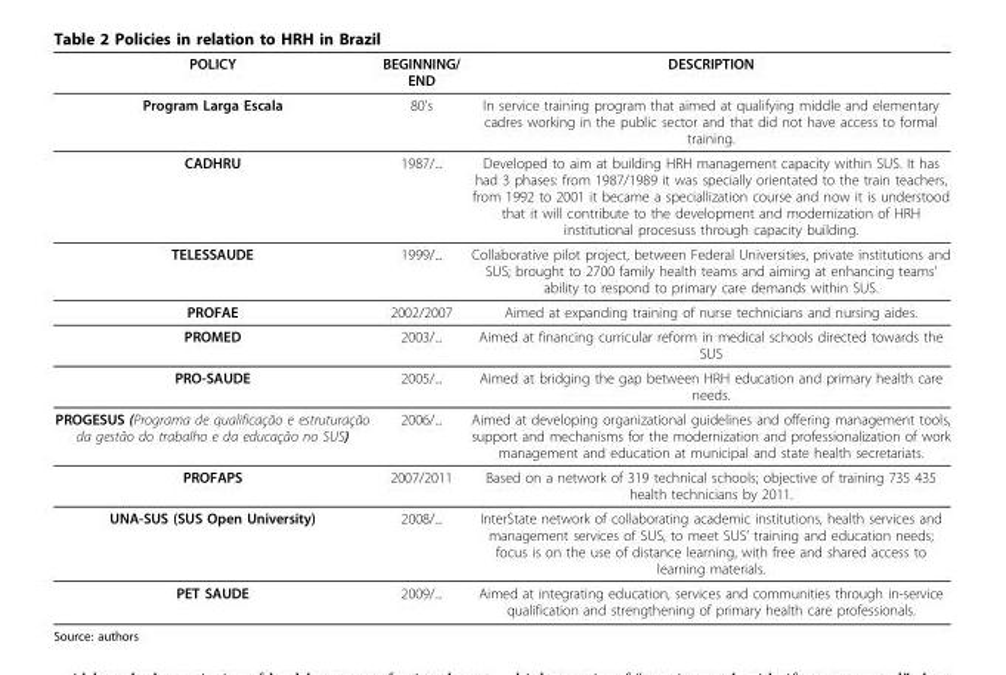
<table><thead><tr><td>POLICY</td><td>BEGINNING/ END</td><td>DESCRIPTION</td></tr></thead><tbody><tr><td>Program Larga Escala</td><td>80’s</td><td>In service training program that aimed at qualifying middle and elementary cadres working in the public sector and that did not have access to formal training.</td></tr><tr><td>CADHRU</td><td>1987/...</td><td>Developed to aim at building HRH management capacity within SUS. It has had 3 phases: from 1987/1989 it was specially orientated to the train teachers, from 1992 to 2001 it became a speciallization course and now it is understood that it will contribute to the development and modernization of HRH institutional procesuss through capacity building.</td></tr><tr><td>TELESSAUDE</td><td>1999/...</td><td>Collaborative pilot project, between Federal Universities, private institutions and SUS; brought to 2700 family health teams and aiming at enhancing teams’ ability to respond to primary care demands within SUS.</td></tr><tr><td>PROFAE</td><td>2002/2007</td><td>Aimed at expanding training of nurse technicians and nursing aides.</td></tr><tr><td>PROMED</td><td>2003/...</td><td>Aimed at financing curricular reform in medical schools directed towards the SUS</td></tr><tr><td>PRO-SAUDE</td><td>2005/...</td><td>Aimed at bridging the gap between HRH education and primary health care needs.</td></tr><tr><td>PROGESUS (Programa de qualificação e estruturação da gestão do trabalho e da educação no SUS)</td><td>2006/...</td><td>Aimed at developing organizational guidelines and offering management tools, support and mechanisms for the modernization and professionalization of work management and education at municipal and state health secretariats.</td></tr><tr><td>PROFAPS</td><td>2007/2011</td><td>Based on a network of 319 technical schools; objective of training 735 435 health technicians by 2011.</td></tr><tr><td>UNA-SUS (SUS Open University)</td><td>2008/...</td><td>InterState network of collaborating academic institutions, health services and management services of SUS, to meet SUS’ training and education needs; focus is on the use of distance learning, with free and shared access to learning materials.</td></tr><tr><td>PET SAUDE</td><td>2009/...</td><td>Aimed at integrating education, services and communities through in-service qualification and strengthening of primary health care professionals.</td></tr></tbody></table>